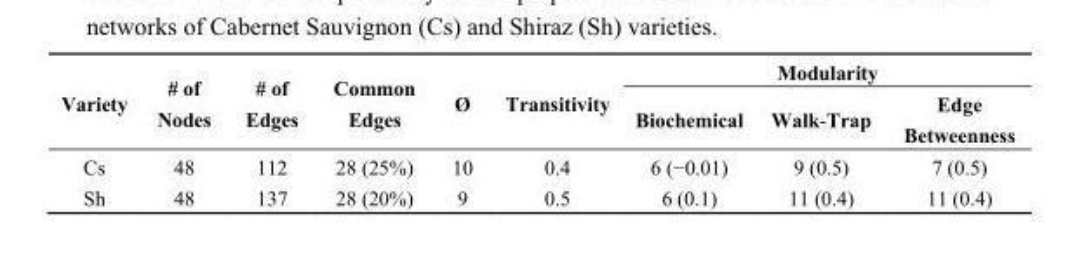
<table><thead><tr><td rowspan="2">Variety</td><td rowspan="2"># of Nodes</td><td rowspan="2"># of Edges</td><td rowspan="2">Common Edges</td><td rowspan="2">Ø</td><td rowspan="2">Transitivity</td><td colspan="3">Modularity</td></tr><tr><td>Biochemical</td><td>Walk-Trap</td><td>Edge Betweenness</td></tr></thead><tbody><tr><td>Cs</td><td>48</td><td>112</td><td>28 (25%)</td><td>10</td><td>0.4</td><td>6 (−0.01)</td><td>9 (0.5)</td><td>7 (0.5)</td></tr><tr><td>Sh</td><td>48</td><td>137</td><td>28 (20%)</td><td>9</td><td>0.5</td><td>6 (0.1)</td><td>11 (0.4)</td><td>11 (0.4)</td></tr></tbody></table>